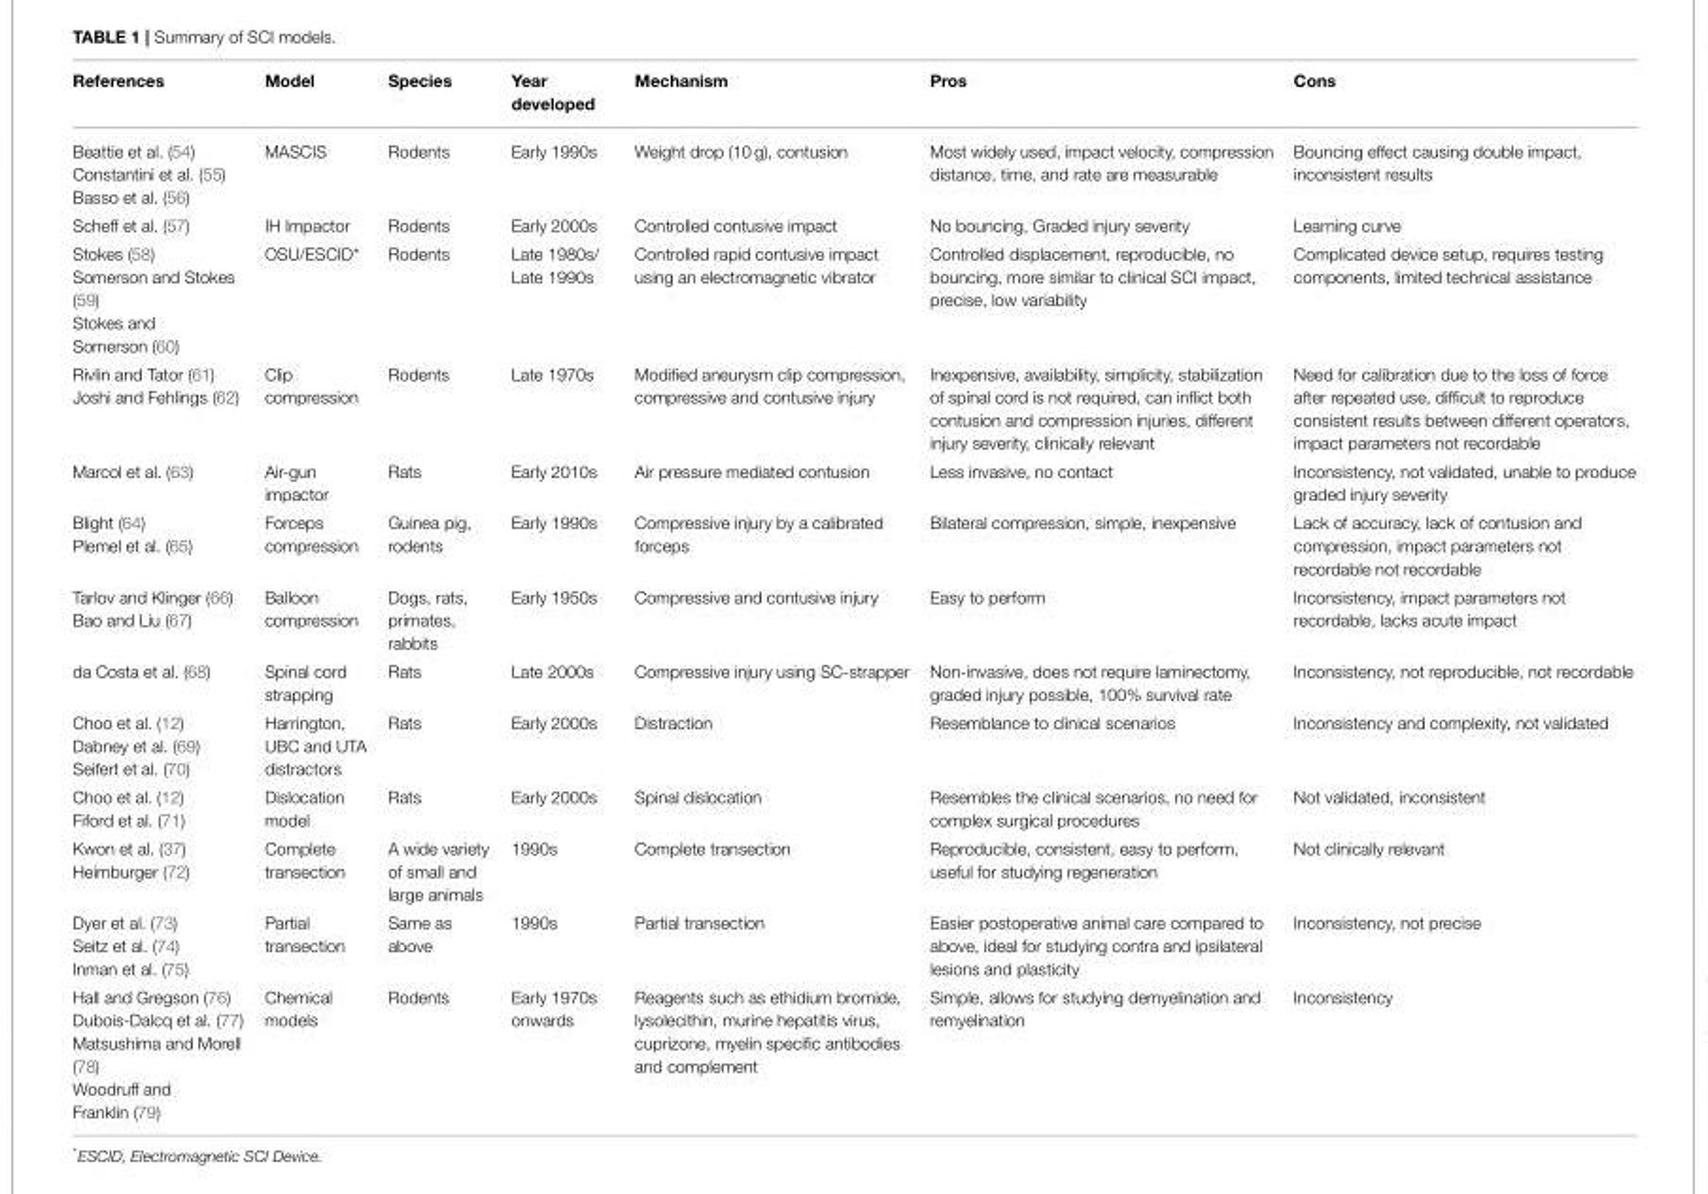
<table><thead><tr><td>References</td><td>Model</td><td>Species</td><td>Year developed</td><td>Mechanism</td><td>Pros</td><td>Cons</td></tr></thead><tbody><tr><td>Beattie et al. (54) Constantini et al. (55) Basso et al. (56)</td><td>MASCIS</td><td>Rodents</td><td>Early 1990s</td><td>Weight drop (10 g), contusion</td><td>Most widely used, impact velocity, compression distance, time, and rate are measurable</td><td>Bouncing effect causing double impact, inconsistent results</td></tr><tr><td>Scheff et al. (57)</td><td>IH Impactor</td><td>Rodents</td><td>Early 2000s</td><td>Controlled contusive impact</td><td>No bouncing, Graded injury severity</td><td>Learning curve</td></tr><tr><td>Stokes (58) Somerson and Stokes (59) Stokes and Somerson (60)</td><td>OSU/ESCID*</td><td>Rodents</td><td>Late 1980s/ Late 1990s</td><td>Controlled rapid contusive impact using an electromagnetic vibrator</td><td>Controlled displacement, reproducible, no bouncing, more similar to clinical SCI impact, precise, low variability</td><td>Complicated device setup, requires testing components, limited technical assistance</td></tr><tr><td>Rivlin and Tator (61) Joshi and Fehlings (62)</td><td>Clip compression</td><td>Rodents</td><td>Late 1970s</td><td>Modified aneurysm clip compression, compressive and contusive injury</td><td>Inexpensive, availability, simplicity, stabilization of spinal cord is not required, can inflict both contusion and compression injuries, different injury severity, clinically relevant</td><td>Need for calibration due to the loss of force after repeated use, difficult to reproduce consistent results between different operators, impact parameters not recordable</td></tr><tr><td>Marcol et al. (63)</td><td>Air-gun impactor</td><td>Rats</td><td>Early 2010s</td><td>Air pressure mediated contusion</td><td>Less invasive, no contact</td><td>Inconsistency, not validated, unable to produce graded injury severity</td></tr><tr><td>Blight (64) Plemel et al. (65)</td><td>Forceps compression</td><td>Guinea pig, rodents</td><td>Early 1990s</td><td>Compressive injury by a calibrated forceps</td><td>Bilateral compression, simple, inexpensive</td><td>Lack of accuracy, lack of contusion and compression, impact parameters not recordable not recordable</td></tr><tr><td>Tarlov and Klinger (66) Bao and Liu (67)</td><td>Balloon compression</td><td>Dogs, rats, primates, rabbits</td><td>Early 1950s</td><td>Compressive and contusive injury</td><td>Easy to perform</td><td>Inconsistency, impact parameters not recordable, lacks acute impact</td></tr><tr><td>da Costa et al. (68)</td><td>Spinal cord strapping</td><td>Rats</td><td>Late 2000s</td><td>Compressive injury using SC-strapper</td><td>Non-invasive, does not require laminectomy, graded injury possible, 100% survival rate</td><td>Inconsistency, not reproducible, not recordable</td></tr><tr><td>Choo et al. (12) Dabney et al. (69) Seifert et al. (70)</td><td>Harrington, UBC and UTA distractors</td><td>Rats</td><td>Early 2000s</td><td>Distraction</td><td>Resemblance to clinical scenarios</td><td>Inconsistency and complexity, not validated</td></tr><tr><td>Choo et al. (12) Fiford et al. (71)</td><td>Dislocation model</td><td>Rats</td><td>Early 2000s</td><td>Spinal dislocation</td><td>Resembles the clinical scenarios, no need for complex surgical procedures</td><td>Not validated, inconsistent</td></tr><tr><td>Kwon et al. (37) Heimburger (72)</td><td>Complete transection</td><td>A wide variety of small and large animals</td><td>1990s</td><td>Complete transection</td><td>Reproducible, consistent, easy to perform, useful for studying regeneration</td><td>Not clinically relevant</td></tr><tr><td>Dyer et al. (73) Seitz et al. (74) Inman et al. (75)</td><td>Partial transection</td><td>Same as above</td><td>1990s</td><td>Partial transection</td><td>Easier postoperative animal care compared to above, ideal for studying contra and ipsilateral lesions and plasticity</td><td>Inconsistency, not precise</td></tr><tr><td>Hall and Gregson (76) Dubois-Dalcq et al. (77) Matsushima and Morell (78) Woodruff and Franklin (79)</td><td>Chemical models</td><td>Rodents</td><td>Early 1970s onwards</td><td>Reagents such as ethidium bromide, lysolecithin, murine hepatitis virus, cuprizone, myelin specific antibodies and complement</td><td>Simple, allows for studying demyelination and remyelination</td><td>Inconsistency</td></tr></tbody></table>